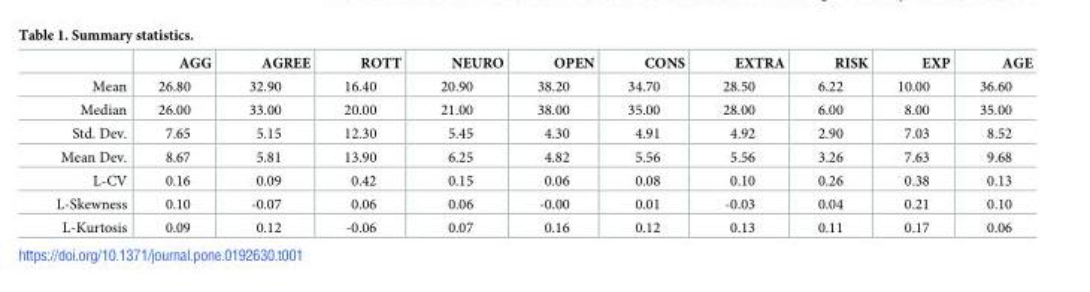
<table><thead><tr><td></td><td>AGG</td><td>AGREE</td><td>ROTT</td><td>NEURO</td><td>OPEN</td><td>CONS</td><td>EXTRA</td><td>RISK</td><td>EXP</td><td>AGE</td></tr></thead><tbody><tr><td>Mean</td><td>26.80</td><td>32.90</td><td>16.40</td><td>20.90</td><td>38.20</td><td>34.70</td><td>28.50</td><td>6.22</td><td>10.00</td><td>36.60</td></tr><tr><td>Median</td><td>26.00</td><td>33.00</td><td>20.00</td><td>21.00</td><td>38.00</td><td>35.00</td><td>28.00</td><td>6.00</td><td>8.00</td><td>35.00</td></tr><tr><td>Std. Dev.</td><td>7.65</td><td>5.15</td><td>12.30</td><td>5.45</td><td>4.30</td><td>4.91</td><td>4.92</td><td>2.90</td><td>7.03</td><td>8.52</td></tr><tr><td>Mean Dev.</td><td>8.67</td><td>5.81</td><td>13.90</td><td>6.25</td><td>4.82</td><td>5.56</td><td>5.56</td><td>3.26</td><td>7.63</td><td>9.68</td></tr><tr><td>L-CV</td><td>0.16</td><td>0.09</td><td>0.42</td><td>0.15</td><td>0.06</td><td>0.08</td><td>0.10</td><td>0.26</td><td>0.38</td><td>0.13</td></tr><tr><td>L-Skewness</td><td>0.10</td><td>-0.07</td><td>0.06</td><td>0.06</td><td>-0.00</td><td>0.01</td><td>-0.03</td><td>0.04</td><td>0.21</td><td>0.10</td></tr><tr><td>L-Kurtosis</td><td>0.09</td><td>0.12</td><td>-0.06</td><td>0.07</td><td>0.16</td><td>0.12</td><td>0.13</td><td>0.11</td><td>0.17</td><td>0.06</td></tr></tbody></table>